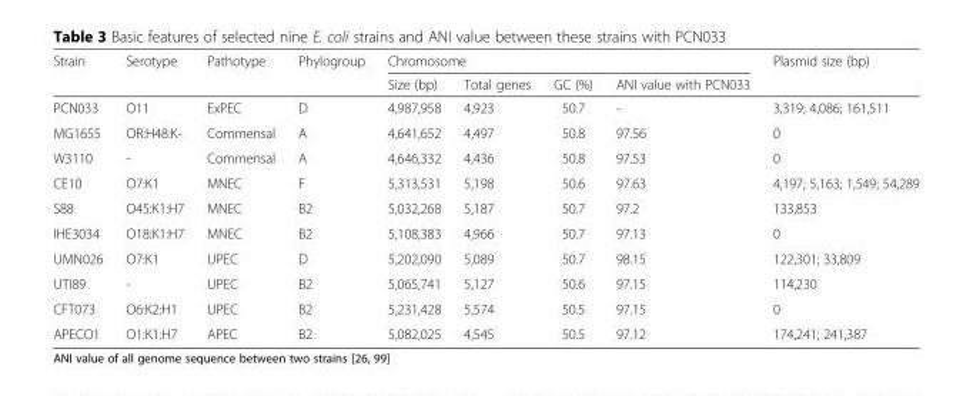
<table><thead><tr><td rowspan="2">Strain</td><td rowspan="2">Serotype</td><td rowspan="2">Pathotype</td><td rowspan="2">Phylogroup</td><td colspan="4">Chromosome</td><td rowspan="2">Plasmid size (bp)</td></tr><tr><td>Size (bp)</td><td>Total genes</td><td>GC (%)</td><td>ANI value with PCN033</td></tr></thead><tbody><tr><td>PCN033</td><td>O11</td><td>ExPEC</td><td>D</td><td>4,987,958</td><td>4,923</td><td>50.7</td><td>-</td><td>3,319; 4,086; 161,511</td></tr><tr><td>MG1655</td><td>OR:H48:K-</td><td>Commensal</td><td>A</td><td>4,641,652</td><td>4,497</td><td>50.8</td><td>97.56</td><td>0</td></tr><tr><td>W3110</td><td>-</td><td>Commensal</td><td>A</td><td>4,646,332</td><td>4,436</td><td>50.8</td><td>97.53</td><td>0</td></tr><tr><td>CE10</td><td>O7:K1</td><td>MNEC</td><td>F</td><td>5,313,531</td><td>5,198</td><td>50.6</td><td>97.63</td><td>4,197; 5,163; 1,549; 54,289</td></tr><tr><td>S88</td><td>O45:K1:H7</td><td>MNEC</td><td>B2</td><td>5,032,268</td><td>5,187</td><td>50.7</td><td>97.2</td><td>133,853</td></tr><tr><td>IHE3034</td><td>O18:K1:H7</td><td>MNEC</td><td>B2</td><td>5,108,383</td><td>4,966</td><td>50.7</td><td>97.13</td><td>0</td></tr><tr><td>UMN026</td><td>O7:K1</td><td>UPEC</td><td>D</td><td>5,202,090</td><td>5,089</td><td>50.7</td><td>98.15</td><td>122,301; 33,809</td></tr><tr><td>UTI89</td><td>-</td><td>UPEC</td><td>B2</td><td>5,065,741</td><td>5,127</td><td>50.6</td><td>97.15</td><td>114,230</td></tr><tr><td>CFT073</td><td>O6:K2:H1</td><td>UPEC</td><td>B2</td><td>5,231,428</td><td>5,574</td><td>50.5</td><td>97.15</td><td>0</td></tr><tr><td>APECO1</td><td>O1:K1:H7</td><td>APEC</td><td>B2</td><td>5,082,025</td><td>4,545</td><td>50.5</td><td>97.12</td><td>174,241; 241,387</td></tr></tbody></table>